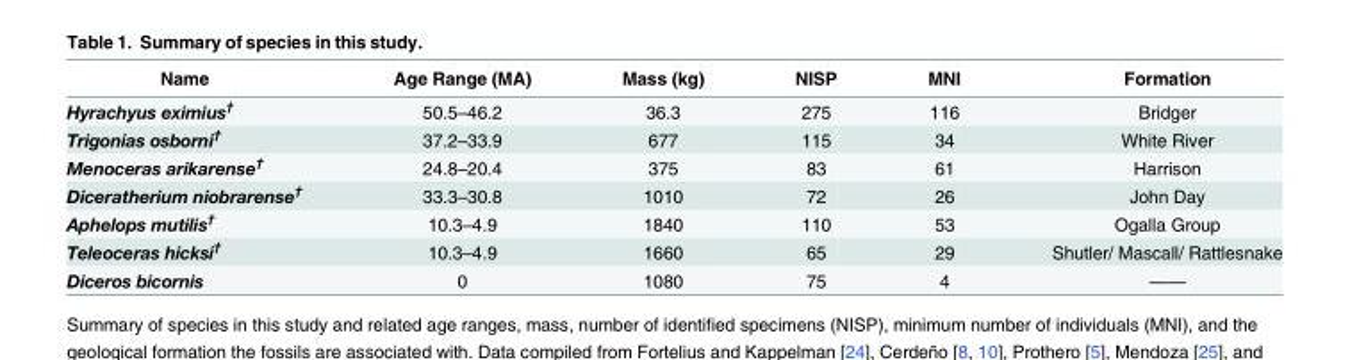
<table><thead><tr><td>Name</td><td>Age Range (MA)</td><td>Mass (kg)</td><td>NISP</td><td>MNI</td><td>Formation</td></tr></thead><tbody><tr><td>Hyrachyus eximius<sup>†</sup></td><td>50.5–46.2</td><td>36.3</td><td>275</td><td>116</td><td>Bridger</td></tr><tr><td>Trigonias osborni<sup>†</sup></td><td>37.2–33.9</td><td>677</td><td>115</td><td>34</td><td>White River</td></tr><tr><td>Menoceras arikarense<sup>†</sup></td><td>24.8–20.4</td><td>375</td><td>83</td><td>61</td><td>Harrison</td></tr><tr><td>Diceratherium niobrarense<sup>†</sup></td><td>33.3–30.8</td><td>1010</td><td>72</td><td>26</td><td>John Day</td></tr><tr><td>Aphelops mutilis<sup>†</sup></td><td>10.3–4.9</td><td>1840</td><td>110</td><td>53</td><td>Ogalla Group</td></tr><tr><td>Teleoceras hicksi<sup>†</sup></td><td>10.3–4.9</td><td>1660</td><td>65</td><td>29</td><td>Shutler/ Mascall/ Rattlesnake</td></tr><tr><td>Diceros bicornis</td><td>0</td><td>1080</td><td>75</td><td>4</td><td>——</td></tr></tbody></table>